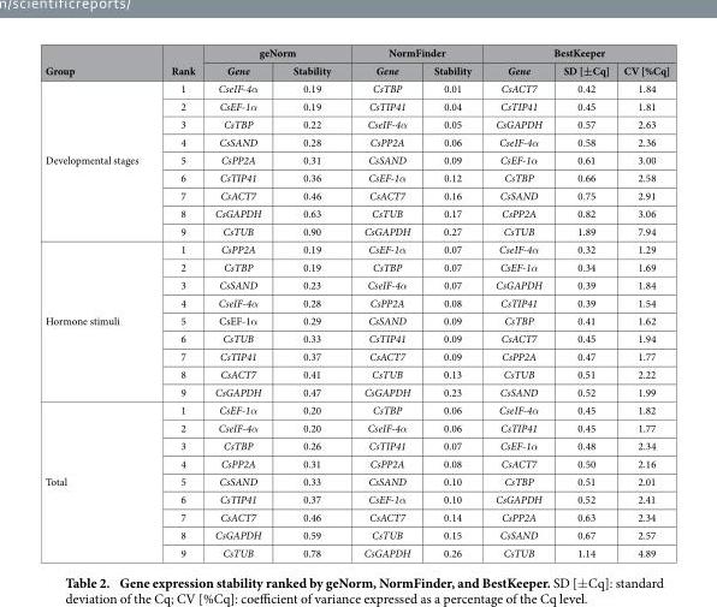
<table><thead><tr><td rowspan="2">Group</td><td rowspan="2">Rank</td><td colspan="2">geNorm</td><td colspan="2">NormFinder</td><td colspan="3">BestKeeper</td></tr><tr><td>Gene</td><td>Stability</td><td>Gene</td><td>Stability</td><td>Gene</td><td>SD [±Cq]</td><td>CV [%Cq]</td></tr></thead><tbody><tr><td rowspan="9">Developmental stages</td><td>1</td><td>CseIF-4α</td><td>0.19</td><td>CsTBP</td><td>0.01</td><td>CsACT7</td><td>0.42</td><td>1.84</td></tr><tr><td>2</td><td>CsEF-1α</td><td>0.19</td><td>CsTIP41</td><td>0.04</td><td>CsTIP41</td><td>0.45</td><td>1.81</td></tr><tr><td>3</td><td>CsTBP</td><td>0.22</td><td>CseIF-4α</td><td>0.05</td><td>CsGAPDH</td><td>0.57</td><td>2.63</td></tr><tr><td>4</td><td>CsSAND</td><td>0.28</td><td>CsPP2A</td><td>0.06</td><td>CseIF-4α</td><td>0.58</td><td>2.36</td></tr><tr><td>5</td><td>CsPP2A</td><td>0.31</td><td>CsSAND</td><td>0.09</td><td>CsEF-1α</td><td>0.61</td><td>3.00</td></tr><tr><td>6</td><td>CsTIP41</td><td>0.36</td><td>CsEF-1α</td><td>0.12</td><td>CsTBP</td><td>0.66</td><td>2.58</td></tr><tr><td>7</td><td>CsACT7</td><td>0.46</td><td>CsACT7</td><td>0.16</td><td>CsSAND</td><td>0.75</td><td>2.91</td></tr><tr><td>8</td><td>CsGAPDH</td><td>0.63</td><td>CsTUB</td><td>0.17</td><td>CsPP2A</td><td>0.82</td><td>3.06</td></tr><tr><td>9</td><td>CsTUB</td><td>0.90</td><td>CsGAPDH</td><td>0.27</td><td>CsTUB</td><td>1.89</td><td>7.94</td></tr><tr><td rowspan="9">Hormone stimuli</td><td>1</td><td>CsPP2A</td><td>0.19</td><td>CsEF-1α</td><td>0.07</td><td>CseIF-4α</td><td>0.32</td><td>1.29</td></tr><tr><td>2</td><td>CsTBP</td><td>0.19</td><td>CsTBP</td><td>0.07</td><td>CsEF-1α</td><td>0.34</td><td>1.69</td></tr><tr><td>3</td><td>CsSAND</td><td>0.23</td><td>CseIF-4α</td><td>0.07</td><td>CsGAPDH</td><td>0.39</td><td>1.84</td></tr><tr><td>4</td><td>CseIF-4α</td><td>0.28</td><td>CsPP2A</td><td>0.08</td><td>CsTIP41</td><td>0.39</td><td>1.54</td></tr><tr><td>5</td><td>CsEF-1α</td><td>0.29</td><td>CsSAND</td><td>0.09</td><td>CsTBP</td><td>0.41</td><td>1.62</td></tr><tr><td>6</td><td>CsTUB</td><td>0.33</td><td>CsTIP41</td><td>0.09</td><td>CsACT7</td><td>0.45</td><td>1.94</td></tr><tr><td>7</td><td>CsTIP41</td><td>0.37</td><td>CsACT7</td><td>0.09</td><td>CsPP2A</td><td>0.47</td><td>1.77</td></tr><tr><td>8</td><td>CsACT7</td><td>0.41</td><td>CsTUB</td><td>0.13</td><td>CsTUB</td><td>0.51</td><td>2.22</td></tr><tr><td>9</td><td>CsGAPDH</td><td>0.47</td><td>CsGAPDH</td><td>0.23</td><td>CsSAND</td><td>0.52</td><td>1.99</td></tr><tr><td rowspan="9">Total</td><td>1</td><td>CsEF-1α</td><td>0.20</td><td>CsTBP</td><td>0.06</td><td>CseIF-4α</td><td>0.45</td><td>1.82</td></tr><tr><td>2</td><td>CseIF-4α</td><td>0.20</td><td>CseIF-4α</td><td>0.06</td><td>CsTIP41</td><td>0.45</td><td>1.77</td></tr><tr><td>3</td><td>CsTBP</td><td>0.26</td><td>CsTIP41</td><td>0.07</td><td>CsEF-1α</td><td>0.48</td><td>2.34</td></tr><tr><td>4</td><td>CsPP2A</td><td>0.31</td><td>CsPP2A</td><td>0.08</td><td>CsACT7</td><td>0.50</td><td>2.16</td></tr><tr><td>5</td><td>CsSAND</td><td>0.33</td><td>CsSAND</td><td>0.10</td><td>CsTBP</td><td>0.51</td><td>2.01</td></tr><tr><td>6</td><td>CsTIP41</td><td>0.37</td><td>CsEF-1α</td><td>0.10</td><td>CsGAPDH</td><td>0.52</td><td>2.41</td></tr><tr><td>7</td><td>CsACT7</td><td>0.46</td><td>CsACT7</td><td>0.14</td><td>CsPP2A</td><td>0.63</td><td>2.34</td></tr><tr><td>8</td><td>CsGAPDH</td><td>0.59</td><td>CsTUB</td><td>0.15</td><td>CsSAND</td><td>0.67</td><td>2.57</td></tr><tr><td>9</td><td>CsTUB</td><td>0.78</td><td>CsGAPDH</td><td>0.26</td><td>CsTUB</td><td>1.14</td><td>4.89</td></tr></tbody></table>